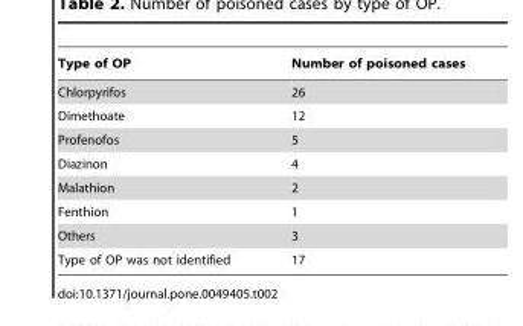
<table><thead><tr><td>Type of OP</td><td>Number of poisoned cases</td></tr></thead><tbody><tr><td>Chlorpyrifos</td><td>26</td></tr><tr><td>Dimethoate</td><td>12</td></tr><tr><td>Profenofos</td><td>5</td></tr><tr><td>Diazinon</td><td>4</td></tr><tr><td>Malathion</td><td>2</td></tr><tr><td>Fenthion</td><td>1</td></tr><tr><td>Others</td><td>3</td></tr><tr><td>Type of OP was not identified</td><td>17</td></tr></tbody></table>